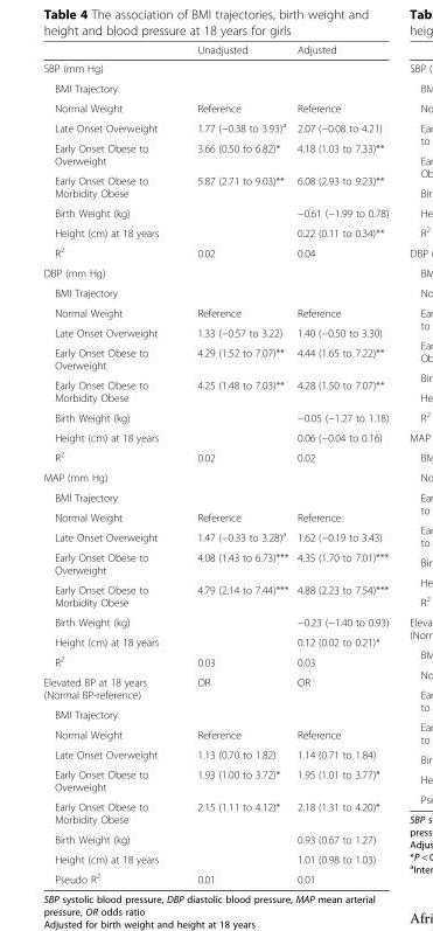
<table><thead><tr><td></td><td>Unadjusted</td><td>Adjusted</td></tr></thead><tbody><tr><td colspan="3">SBP (mm Hg)</td></tr><tr><td colspan="3">BMI Trajectory</td></tr><tr><td>Normal Weight</td><td>Reference</td><td>Reference</td></tr><tr><td>Late Onset Overweight</td><td>1.77 (−0.38 to 3.93)<sup>a</sup></td><td>2.07 (−0.08 to 4.21)</td></tr><tr><td>Early Onset Obese to Overweight</td><td>3.66 (0.50 to 6.82)*</td><td>4.18 (1.03 to 7.33)**</td></tr><tr><td>Early Onset Obese to Morbidity Obese</td><td>5.87 (2.71 to 9.03)**</td><td>6.08 (2.93 to 9.23)**</td></tr><tr><td>Birth Weight (kg)</td><td></td><td>−0.61 (−1.99 to 0.78)</td></tr><tr><td>Height (cm) at 18 years</td><td></td><td>0.22 (0.11 to 0.34)**</td></tr><tr><td>R<sup>2</sup></td><td>0.02</td><td>0.04</td></tr><tr><td colspan="3">DBP (mm Hg)</td></tr><tr><td colspan="3">BMI Trajectory</td></tr><tr><td>Normal Weight</td><td>Reference</td><td>Reference</td></tr><tr><td>Late Onset Overweight</td><td>1.33 (−0.57 to 3.22)</td><td>1.40 (−0.50 to 3.30)</td></tr><tr><td>Early Onset Obese to Overweight</td><td>4.29 (1.52 to 7.07)**</td><td>4.44 (1.65 to 7.22)**</td></tr><tr><td>Early Onset Obese to Morbidity Obese</td><td>4.25 (1.48 to 7.03)**</td><td>4.28 (1.50 to 7.07)**</td></tr><tr><td>Birth Weight (kg)</td><td></td><td>−0.05 (−1.27 to 1.18)</td></tr><tr><td>Height (cm) at 18 years</td><td></td><td>0.06 (−0.04 to 0.16)</td></tr><tr><td>R<sup>2</sup></td><td>0.02</td><td>0.02</td></tr><tr><td colspan="3">MAP (mm Hg)</td></tr><tr><td colspan="3">BMI Trajectory</td></tr><tr><td>Normal Weight</td><td>Reference</td><td>Reference</td></tr><tr><td>Late Onset Overweight</td><td>1.47 (−0.33 to 3.28)<sup>a</sup></td><td>1.62 (−0.19 to 3.43)</td></tr><tr><td>Early Onset Obese to Overweight</td><td>4.08 (1.43 to 6.73)***</td><td>4.35 (1.70 to 7.01)***</td></tr><tr><td>Early Onset Obese to Morbidity Obese</td><td>4.79 (2.14 to 7.44)***</td><td>4.88 (2.23 to 7.54)***</td></tr><tr><td>Birth Weight (kg)</td><td></td><td>−0.23 (−1.40 to 0.93)</td></tr><tr><td>Height (cm) at 18 years</td><td></td><td>0.12 (0.02 to 0.21)*</td></tr><tr><td>R<sup>2</sup></td><td>0.03</td><td>0.03</td></tr><tr><td>Elevated BP at 18 years (Normal BP-reference)</td><td>OR</td><td>OR</td></tr><tr><td colspan="3">BMI Trajectory</td></tr><tr><td>Normal Weight</td><td>Reference</td><td>Reference</td></tr><tr><td>Late Onset Overweight</td><td>1.13 (0.70 to 1.82)</td><td>1.14 (0.71 to 1.84)</td></tr><tr><td>Early Onset Obese to Overweight</td><td>1.93 (1.00 to 3.72)*</td><td>1.95 (1.01 to 3.77)*</td></tr><tr><td>Early Onset Obese to Morbidity Obese</td><td>2.15 (1.11 to 4.12)*</td><td>2.18 (1.31 to 4.20)*</td></tr><tr><td>Birth Weight (kg)</td><td></td><td>0.93 (0.67 to 1.27)</td></tr><tr><td>Height (cm) at 18 years</td><td></td><td>1.01 (0.98 to 1.03)</td></tr><tr><td>Pseudo R<sup>2</sup></td><td>0.01</td><td>0.01</td></tr></tbody></table>